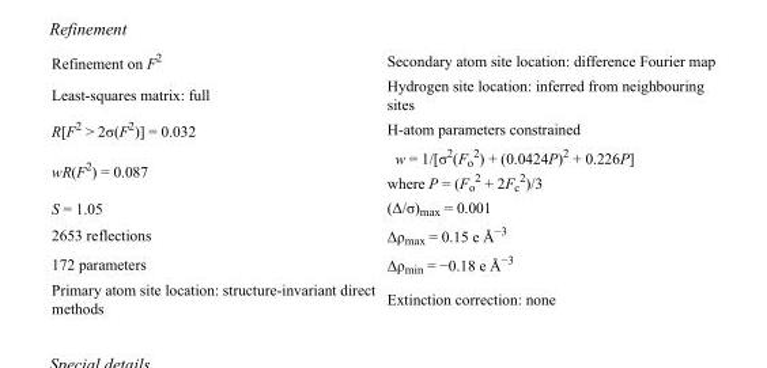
<table><tbody><tr><td>Refinement on F<sup>2</sup></td><td>Secondary atom site location: difference Fourier map</td></tr><tr><td>Least-squares matrix: full</td><td>Hydrogen site location: inferred from neighbouring sites</td></tr><tr><td>R[F<sup>2</sup> &gt; 2σ(F<sup>2</sup>)] = 0.032</td><td>H-atom parameters constrained</td></tr><tr><td>wR(F<sup>2</sup>) = 0.087</td><td>w = 1/[σ<sup>2</sup>(F<sub>o</sub> <sup>2</sup>) + (0.0424P)<sup>2</sup> + 0.226P] where P = (F<sub>o</sub> <sup>2</sup> + 2F<sub>c</sub> <sup>2</sup>)/3</td></tr><tr><td>S = 1.05</td><td>(Δ/σ)<sub>max</sub> = 0.001</td></tr><tr><td>2653 reflections</td><td>Δρ<sub>max</sub> = 0.15 e Å<sup>−3</sup></td></tr><tr><td>172 parameters</td><td>Δρ<sub>min</sub> = −0.18 e Å<sup>−3</sup></td></tr><tr><td>Primary atom site location: structure-invariant direct methods</td><td>Extinction correction: none</td></tr></tbody></table>